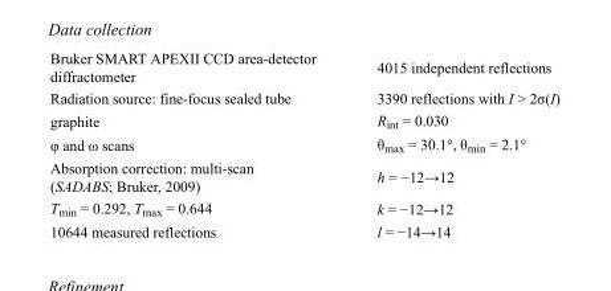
<table><tbody><tr><td>Bruker SMART APEXII CCD area-detector diffractometer</td><td>4015 independent reflections</td></tr><tr><td>Radiation source: fine-focus sealed tube</td><td>3390 reflections with I &gt; 2σ(I)</td></tr><tr><td>graphite</td><td>R<sub>int</sub> = 0.030</td></tr><tr><td>φ and ω scans</td><td>θ<sub>max</sub> = 30.1°, θ<sub>min</sub> = 2.1°</td></tr><tr><td>Absorption correction: multi-scan (SADABS; Bruker, 2009)</td><td>h = −12→12</td></tr><tr><td>T<sub>min</sub> = 0.292, T<sub>max</sub> = 0.644</td><td>k = −12→12</td></tr><tr><td>10644 measured reflections</td><td>l = −14→14</td></tr></tbody></table>